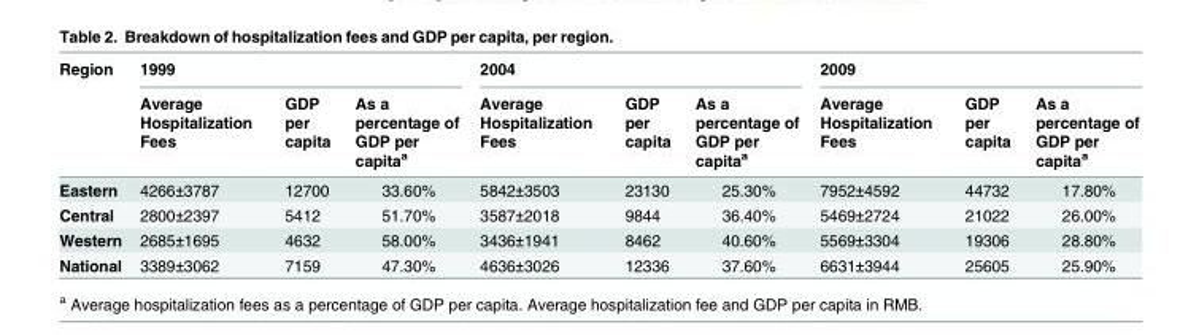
<table><thead><tr><td rowspan="2">Region</td><td colspan="3">1999</td><td colspan="3">2004</td><td colspan="3">2009</td></tr><tr><td>Average Hospitalization Fees</td><td>GDP per capita</td><td>As a percentage of GDP per capita<sup>a</sup></td><td>Average Hospitalization Fees</td><td>GDP per capita</td><td>As a percentage of GDP per capita<sup>a</sup></td><td>Average Hospitalization Fees</td><td>GDP per capita</td><td>As a percentage of GDP per capita<sup>a</sup></td></tr></thead><tbody><tr><td>Eastern</td><td>4266±3787</td><td>12700</td><td>33.60%</td><td>5842±3503</td><td>23130</td><td>25.30%</td><td>7952±4592</td><td>44732</td><td>17.80%</td></tr><tr><td>Central</td><td>2800±2397</td><td>5412</td><td>51.70%</td><td>3587±2018</td><td>9844</td><td>36.40%</td><td>5469±2724</td><td>21022</td><td>26.00%</td></tr><tr><td>Western</td><td>2685±1695</td><td>4632</td><td>58.00%</td><td>3436±1941</td><td>8462</td><td>40.60%</td><td>5569±3304</td><td>19306</td><td>28.80%</td></tr><tr><td>National</td><td>3389±3062</td><td>7159</td><td>47.30%</td><td>4636±3026</td><td>12336</td><td>37.60%</td><td>6631±3944</td><td>25605</td><td>25.90%</td></tr></tbody></table>